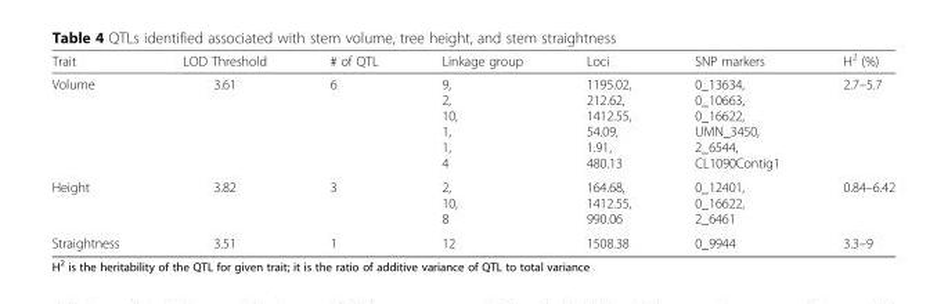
<table><thead><tr><td>Trait</td><td>LOD Threshold</td><td># of QTL</td><td>Linkage group</td><td>Loci</td><td>SNP markers</td><td>H<sup>2</sup> (%)</td></tr></thead><tbody><tr><td>Volume</td><td>3.61</td><td>6</td><td>9, 2, 10, 1, 1, 4</td><td>1195.02, 212.62, 1412.55, 54.09, 1.91, 480.13</td><td>0_13634, 0_10663, 0_16622, UMN_3450, 2_6544, CL1090Contig1</td><td>2.7–5.7</td></tr><tr><td>Height</td><td>3.82</td><td>3</td><td>2, 10, 8</td><td>164.68, 1412.55, 990.06</td><td>0_12401, 0_16622, 2_6461</td><td>0.84–6.42</td></tr><tr><td>Straightness</td><td>3.51</td><td>1</td><td>12</td><td>1508.38</td><td>0_9944</td><td>3.3–9</td></tr></tbody></table>